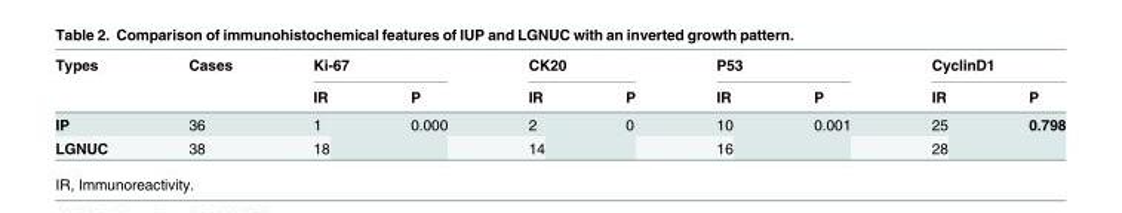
<table><thead><tr><td rowspan="2">Types</td><td rowspan="2">Cases</td><td colspan="2">Ki-67</td><td colspan="2">CK20</td><td colspan="2">P53</td><td colspan="2">CyclinD1</td></tr><tr><td>IR</td><td>P</td><td>IR</td><td>P</td><td>IR</td><td>P</td><td>IR</td><td>P</td></tr></thead><tbody><tr><td>IP</td><td>36</td><td>1</td><td rowspan="2">0.000</td><td>2</td><td rowspan="2">0</td><td>10</td><td rowspan="2">0.001</td><td>25</td><td rowspan="2">0.798</td></tr><tr><td>LGNUC</td><td>38</td><td>18</td><td>14</td><td>16</td><td>28</td></tr></tbody></table>